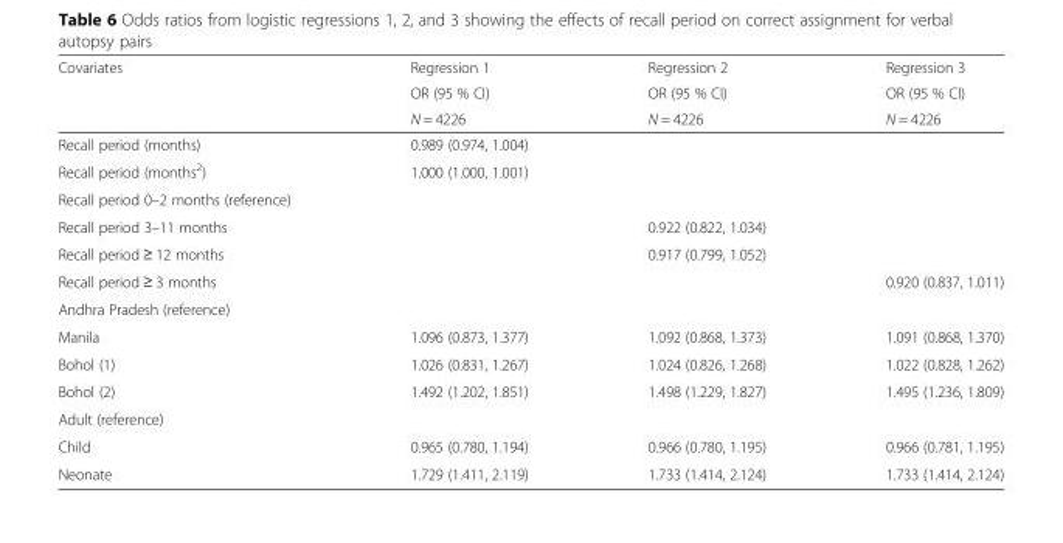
<table><thead><tr><td rowspan="3">Covariates</td><td rowspan="3">Regression 1 OR (95 % CI) N = 4226</td><td rowspan="3">Regression 2 OR (95 % CI) N = 4226</td><td rowspan="3">Regression 3 OR (95 % CI) N = 4226</td></tr><tr></tr><tr></tr></thead><tbody><tr><td>Recall period (months)</td><td>0.989 (0.974, 1.004)</td><td></td><td></td></tr><tr><td>Recall period (months<sup>2</sup>)</td><td>1.000 (1.000, 1.001)</td><td></td><td></td></tr><tr><td colspan="4">Recall period 0–2 months (reference)</td></tr><tr><td>Recall period 3–11 months</td><td></td><td>0.922 (0.822, 1.034)</td><td></td></tr><tr><td>Recall period ≥ 12 months</td><td></td><td>0.917 (0.799, 1.052)</td><td></td></tr><tr><td>Recall period ≥ 3 months</td><td></td><td></td><td>0.920 (0.837, 1.011)</td></tr><tr><td colspan="4">Andhra Pradesh (reference)</td></tr><tr><td>Manila</td><td>1.096 (0.873, 1.377)</td><td>1.092 (0.868, 1.373)</td><td>1.091 (0.868, 1.370)</td></tr><tr><td>Bohol (1)</td><td>1.026 (0.831, 1.267)</td><td>1.024 (0.826, 1.268)</td><td>1.022 (0.828, 1.262)</td></tr><tr><td>Bohol (2)</td><td>1.492 (1.202, 1.851)</td><td>1.498 (1.229, 1.827)</td><td>1.495 (1.236, 1.809)</td></tr><tr><td colspan="4">Adult (reference)</td></tr><tr><td>Child</td><td>0.965 (0.780, 1.194)</td><td>0.966 (0.780, 1.195)</td><td>0.966 (0.781, 1.195)</td></tr><tr><td>Neonate</td><td>1.729 (1.411, 2.119)</td><td>1.733 (1.414, 2.124)</td><td>1.733 (1.414, 2.124)</td></tr></tbody></table>